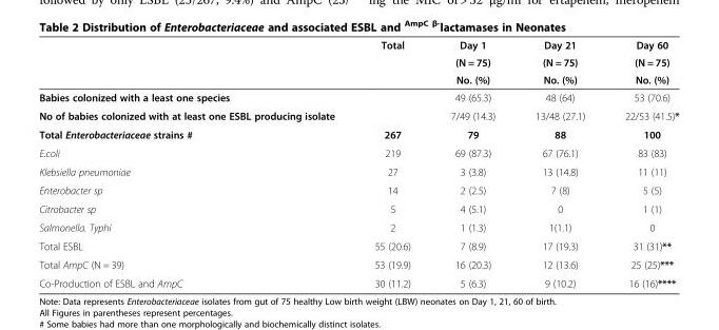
<table><thead><tr><td rowspan="3"></td><td rowspan="3">Total</td><td rowspan="3">Day 1 (N = 75) No. (%)</td><td rowspan="3">Day 21 (N = 75) No. (%)</td><td rowspan="3">Day 60 (N = 75) No. (%)</td></tr><tr></tr><tr></tr></thead><tbody><tr><td>Babies colonized with a least one species</td><td></td><td>49 (65.3)</td><td>48 (64)</td><td>53 (70.6)</td></tr><tr><td>No of babies colonized with at least one ESBL producing isolate</td><td></td><td>7/49 (14.3)</td><td>13/48 (27.1)</td><td>22/53 (41.5)*</td></tr><tr><td>Total Enterobacteriaceae strains #</td><td>267</td><td>79</td><td>88</td><td>100</td></tr><tr><td>E.coli</td><td>219</td><td>69 (87.3)</td><td>67 (76.1)</td><td>83 (83)</td></tr><tr><td>Klebsiella pneumoniae</td><td>27</td><td>3 (3.8)</td><td>13 (14.8)</td><td>11 (11)</td></tr><tr><td>Enterobacter sp</td><td>14</td><td>2 (2.5)</td><td>7 (8)</td><td>5 (5)</td></tr><tr><td>Citrobacter sp</td><td>5</td><td>4 (5.1)</td><td>0</td><td>1 (1)</td></tr><tr><td>Salmonella. Typhi</td><td>2</td><td>1 (1.3)</td><td>1(1.1)</td><td>0</td></tr><tr><td>Total ESBL</td><td>55 (20.6)</td><td>7 (8.9)</td><td>17 (19.3)</td><td>31 (31)**</td></tr><tr><td>Total AmpC (N = 39)</td><td>53 (19.9)</td><td>16 (20.3)</td><td>12 (13.6)</td><td>25 (25)***</td></tr><tr><td>Co-Production of ESBL and AmpC</td><td>30 (11.2)</td><td>5 (6.3)</td><td>9 (10.2)</td><td>16 (16)****</td></tr></tbody></table>